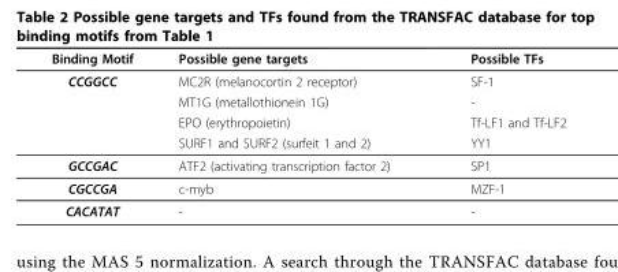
<table><thead><tr><td>Binding Motif</td><td>Possible gene targets</td><td>Possible TFs</td></tr></thead><tbody><tr><td rowspan="4">CCGGCC</td><td>MC2R (melanocortin 2 receptor)</td><td>SF-1</td></tr><tr><td>MT1G (metallothionein 1G)</td><td>-</td></tr><tr><td>EPO (erythropoietin)</td><td>Tf-LF1 and Tf-LF2</td></tr><tr><td>SURF1 and SURF2 (surfeit 1 and 2)</td><td>YY1</td></tr><tr><td>GCCGAC</td><td>ATF2 (activating transcription factor 2)</td><td>SP1</td></tr><tr><td>CGCCGA</td><td>c-myb</td><td>MZF-1</td></tr><tr><td>CACATAT</td><td>-</td><td>-</td></tr></tbody></table>